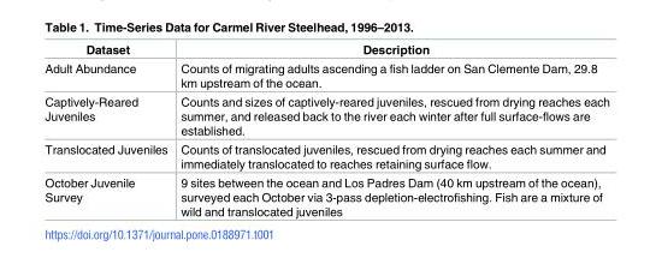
<table><thead><tr><td>Dataset</td><td>Description</td></tr></thead><tbody><tr><td>Adult Abundance</td><td>Counts of migrating adults ascending a fish ladder on San Clemente Dam, 29.8 km upstream of the ocean.</td></tr><tr><td>Captively-Reared Juveniles</td><td>Counts and sizes of captively-reared juveniles, rescued from drying reaches each summer, and released back to the river each winter after full surface-flows are established.</td></tr><tr><td>Translocated Juveniles</td><td>Counts of translocated juveniles, rescued from drying reaches each summer and immediately translocated to reaches retaining surface flow.</td></tr><tr><td>October Juvenile Survey</td><td>9 sites between the ocean and Los Padres Dam (40 km upstream of the ocean), surveyed each October via 3-pass depletion-electrofishing. Fish are a mixture of wild and translocated juveniles</td></tr></tbody></table>